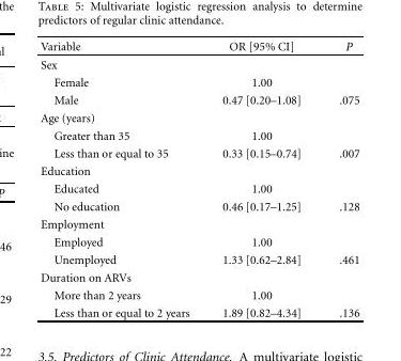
<table><thead><tr><td>Variable</td><td>OR [95% CI]</td><td>P</td></tr></thead><tbody><tr><td colspan="3">Sex</td></tr><tr><td>Female</td><td>1.00</td><td></td></tr><tr><td>Male</td><td>0.47 [0.20–1.08]</td><td>.075</td></tr><tr><td colspan="3">Age (years)</td></tr><tr><td>Greater than 35</td><td>1.00</td><td></td></tr><tr><td>Less than or equal to 35</td><td>0.33 [0.15–0.74]</td><td>.007</td></tr><tr><td colspan="3">Education</td></tr><tr><td>Educated</td><td>1.00</td><td></td></tr><tr><td>No education</td><td>0.46 [0.17–1.25]</td><td>.128</td></tr><tr><td colspan="3">Employment</td></tr><tr><td>Employed</td><td>1.00</td><td></td></tr><tr><td>Unemployed</td><td>1.33 [0.62–2.84]</td><td>.461</td></tr><tr><td colspan="3">Duration on ARVs</td></tr><tr><td>More than 2 years</td><td>1.00</td><td></td></tr><tr><td>Less than or equal to 2 years</td><td>1.89 [0.82–4.34]</td><td>.136</td></tr></tbody></table>